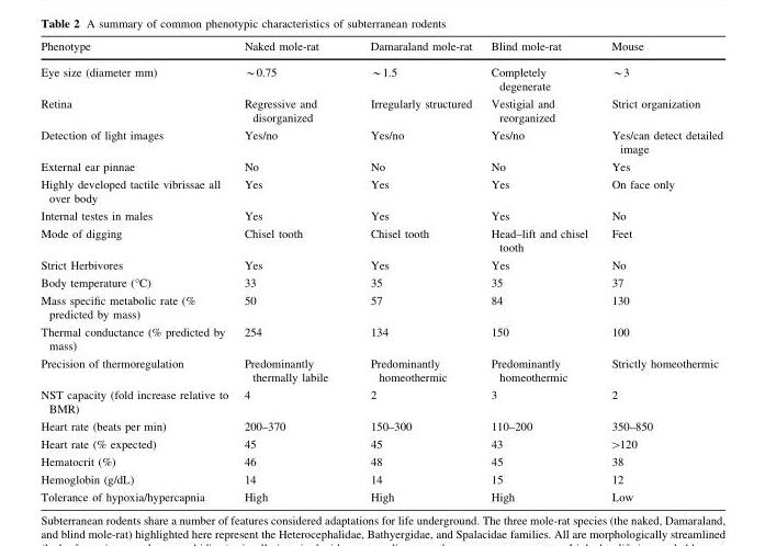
<table><thead><tr><td>Phenotype</td><td>Naked mole-rat</td><td>Damaraland mole-rat</td><td>Blind mole-rat</td><td>Mouse</td></tr></thead><tbody><tr><td>Eye size (diameter mm)</td><td>*0.75</td><td>*1.5</td><td>Completely degenerate</td><td>*3</td></tr><tr><td>Retina</td><td>Regressive and disorganized</td><td>Irregularly structured</td><td>Vestigial and reorganized</td><td>Strict organization</td></tr><tr><td>Detection of light images</td><td>Yes/no</td><td>Yes/no</td><td>Yes/no</td><td>Yes/can detect detailed image</td></tr><tr><td>External ear pinnae</td><td>No</td><td>No</td><td>No</td><td>Yes</td></tr><tr><td>Highly developed tactile vibrissae all over body</td><td>Yes</td><td>Yes</td><td>Yes</td><td>On face only</td></tr><tr><td>Internal testes in males</td><td>Yes</td><td>Yes</td><td>Yes</td><td>No</td></tr><tr><td>Mode of digging</td><td>Chisel tooth</td><td>Chisel tooth</td><td>Head–lift and chisel tooth</td><td>Feet</td></tr><tr><td>Strict Herbivores</td><td>Yes</td><td>Yes</td><td>Yes</td><td>No</td></tr><tr><td>Body temperature (°C)</td><td>33</td><td>35</td><td>35</td><td>37</td></tr><tr><td>Mass specific metabolic rate (% predicted by mass)</td><td>50</td><td>57</td><td>84</td><td>130</td></tr><tr><td>Thermal conductance (% predicted by mass)</td><td>254</td><td>134</td><td>150</td><td>100</td></tr><tr><td>Precision of thermoregulation</td><td>Predominantly thermally labile</td><td>Predominantly homeothermic</td><td>Predominantly homeothermic</td><td>Strictly homeothermic</td></tr><tr><td>NST capacity (fold increase relative to BMR)</td><td>4</td><td>2</td><td>3</td><td>2</td></tr><tr><td>Heart rate (beats per min)</td><td>200–370</td><td>150–300</td><td>110–200</td><td>350–850</td></tr><tr><td>Heart rate (% expected)</td><td>45</td><td>45</td><td>43</td><td>&gt;120</td></tr><tr><td>Hematocrit (%)</td><td>46</td><td>48</td><td>45</td><td>38</td></tr><tr><td>Hemoglobin (g/dL)</td><td>14</td><td>14</td><td>15</td><td>12</td></tr><tr><td>Tolerance of hypoxia/hypercapnia</td><td>High</td><td>High</td><td>High</td><td>Low</td></tr></tbody></table>